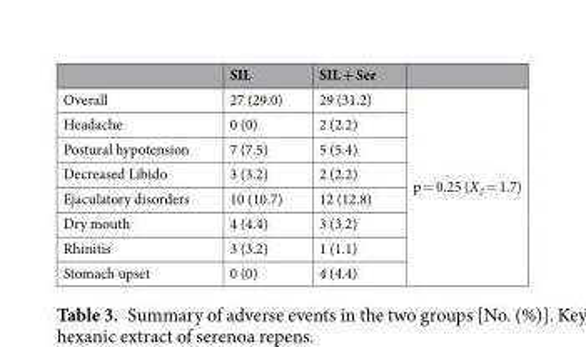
<table><thead><tr><td></td><td>SIL</td><td>SIL + Ser</td><td></td></tr></thead><tbody><tr><td>Overall</td><td>27 (29.0)</td><td>29 (31.2)</td><td rowspan="8">p = 0.25 (X<sub>2</sub> = 1.7)</td></tr><tr><td>Headache</td><td>0 (0)</td><td>2 (2.2)</td></tr><tr><td>Postural hypotension</td><td>7 (7.5)</td><td>5 (5.4)</td></tr><tr><td>Decreased Libido</td><td>3 (3.2)</td><td>2 (2.2)</td></tr><tr><td>Ejaculatory disorders</td><td>10 (10.7)</td><td>12 (12.8)</td></tr><tr><td>Dry mouth</td><td>4 (4.4)</td><td>3 (3.2)</td></tr><tr><td>Rhinitis</td><td>3 (3.2)</td><td>1 (1.1)</td></tr><tr><td>Stomach upset</td><td>0 (0)</td><td>4 (4.4)</td></tr></tbody></table>